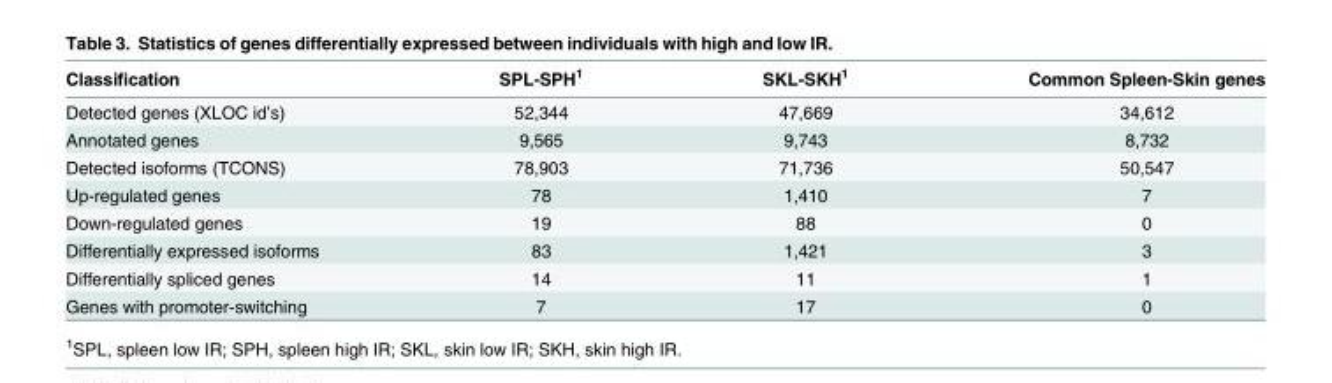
<table><thead><tr><td>Classification</td><td>SPL-SPH<sup>1</sup></td><td>SKL-SKH<sup>1</sup></td><td>Common Spleen-Skin genes</td></tr></thead><tbody><tr><td>Detected genes (XLOC id’s)</td><td>52,344</td><td>47,669</td><td>34,612</td></tr><tr><td>Annotated genes</td><td>9,565</td><td>9,743</td><td>8,732</td></tr><tr><td>Detected isoforms (TCONS)</td><td>78,903</td><td>71,736</td><td>50,547</td></tr><tr><td>Up-regulated genes</td><td>78</td><td>1,410</td><td>7</td></tr><tr><td>Down-regulated genes</td><td>19</td><td>88</td><td>0</td></tr><tr><td>Differentially expressed isoforms</td><td>83</td><td>1,421</td><td>3</td></tr><tr><td>Differentially spliced genes</td><td>14</td><td>11</td><td>1</td></tr><tr><td>Genes with promoter-switching</td><td>7</td><td>17</td><td>0</td></tr></tbody></table>